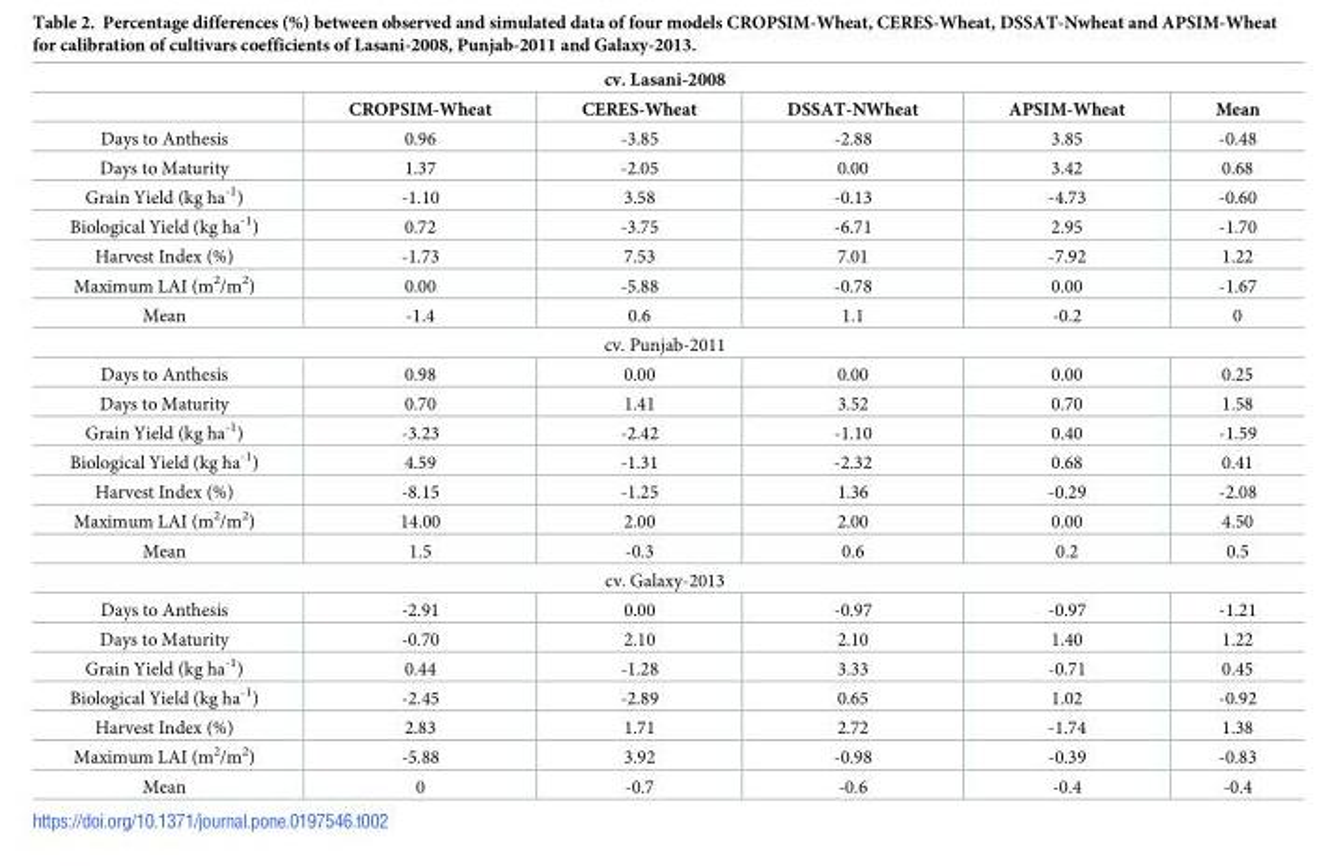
<table><thead><tr><td colspan="6">cv. Lasani-2008</td></tr><tr><td></td><td>CROPSIM-Wheat</td><td>CERES-Wheat</td><td>DSSAT-NWheat</td><td>APSIM-Wheat</td><td>Mean</td></tr></thead><tbody><tr><td>Days to Anthesis</td><td>0.96</td><td>-3.85</td><td>-2.88</td><td>3.85</td><td>-0.48</td></tr><tr><td>Days to Maturity</td><td>1.37</td><td>-2.05</td><td>0.00</td><td>3.42</td><td>0.68</td></tr><tr><td>Grain Yield (kg ha<sup>-1</sup>)</td><td>-1.10</td><td>3.58</td><td>-0.13</td><td>-4.73</td><td>-0.60</td></tr><tr><td>Biological Yield (kg ha<sup>-1</sup>)</td><td>0.72</td><td>-3.75</td><td>-6.71</td><td>2.95</td><td>-1.70</td></tr><tr><td>Harvest Index (%)</td><td>-1.73</td><td>7.53</td><td>7.01</td><td>-7.92</td><td>1.22</td></tr><tr><td>Maximum LAI (m<sup>2</sup>/m<sup>2</sup>)</td><td>0.00</td><td>-5.88</td><td>-0.78</td><td>0.00</td><td>-1.67</td></tr><tr><td>Mean</td><td>-1.4</td><td>0.6</td><td>1.1</td><td>-0.2</td><td>0</td></tr><tr><td colspan="6">cv. Punjab-2011</td></tr><tr><td>Days to Anthesis</td><td>0.98</td><td>0.00</td><td>0.00</td><td>0.00</td><td>0.25</td></tr><tr><td>Days to Maturity</td><td>0.70</td><td>1.41</td><td>3.52</td><td>0.70</td><td>1.58</td></tr><tr><td>Grain Yield (kg ha<sup>-1</sup>)</td><td>-3.23</td><td>-2.42</td><td>-1.10</td><td>0.40</td><td>-1.59</td></tr><tr><td>Biological Yield (kg ha<sup>-1</sup>)</td><td>4.59</td><td>-1.31</td><td>-2.32</td><td>0.68</td><td>0.41</td></tr><tr><td>Harvest Index (%)</td><td>-8.15</td><td>-1.25</td><td>1.36</td><td>-0.29</td><td>-2.08</td></tr><tr><td>Maximum LAI (m<sup>2</sup>/m<sup>2</sup>)</td><td>14.00</td><td>2.00</td><td>2.00</td><td>0.00</td><td>4.50</td></tr><tr><td>Mean</td><td>1.5</td><td>-0.3</td><td>0.6</td><td>0.2</td><td>0.5</td></tr><tr><td colspan="6">cv. Galaxy-2013</td></tr><tr><td>Days to Anthesis</td><td>-2.91</td><td>0.00</td><td>-0.97</td><td>-0.97</td><td>-1.21</td></tr><tr><td>Days to Maturity</td><td>-0.70</td><td>2.10</td><td>2.10</td><td>1.40</td><td>1.22</td></tr><tr><td>Grain Yield (kg ha<sup>-1</sup>)</td><td>0.44</td><td>-1.28</td><td>3.33</td><td>-0.71</td><td>0.45</td></tr><tr><td>Biological Yield (kg ha<sup>-1</sup>)</td><td>-2.45</td><td>-2.89</td><td>0.65</td><td>1.02</td><td>-0.92</td></tr><tr><td>Harvest Index (%)</td><td>2.83</td><td>1.71</td><td>2.72</td><td>-1.74</td><td>1.38</td></tr><tr><td>Maximum LAI (m<sup>2</sup>/m<sup>2</sup>)</td><td>-5.88</td><td>3.92</td><td>-0.98</td><td>-0.39</td><td>-0.83</td></tr><tr><td>Mean</td><td>0</td><td>-0.7</td><td>-0.6</td><td>-0.4</td><td>-0.4</td></tr></tbody></table>